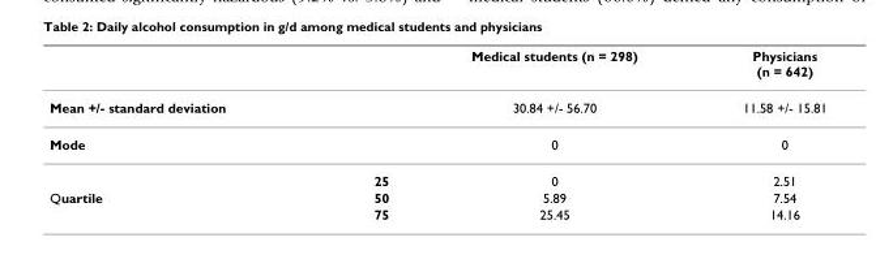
<table><thead><tr><td></td><td></td><td>Medical students (n = 298)</td><td>Physicians (n = 642)</td></tr></thead><tbody><tr><td>Mean +/- standard deviation</td><td></td><td>30.84 +/- 56.70</td><td>11.58 +/- 15.81</td></tr><tr><td rowspan="2">Mode</td><td></td><td>0</td><td>0</td></tr><tr><td>25</td><td>0</td><td>2.51</td></tr><tr><td rowspan="2">Quartile</td><td>50</td><td>5.89</td><td>7.54</td></tr><tr><td>75</td><td>25.45</td><td>14.16</td></tr></tbody></table>